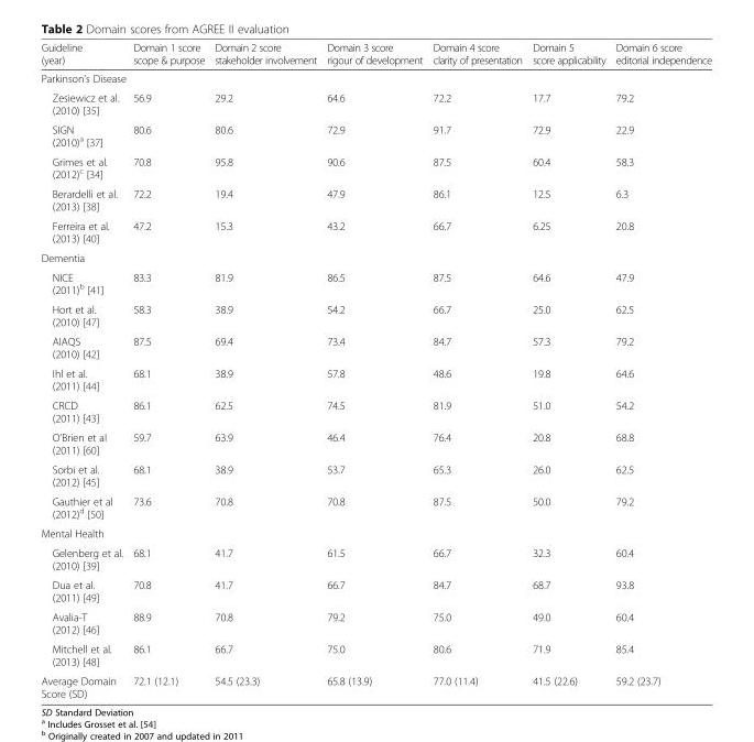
<table><thead><tr><td>Guideline (year)</td><td>Domain 1 score scope &amp; purpose</td><td>Domain 2 score stakeholder involvement</td><td>Domain 3 score rigour of development</td><td>Domain 4 score clarity of presentation</td><td>Domain 5 score applicability</td><td>Domain 6 score editorial independence</td></tr></thead><tbody><tr><td colspan="7">Parkinson’s Disease</td></tr><tr><td>Zesiewicz et al. (2010) [35]</td><td>56.9</td><td>29.2</td><td>64.6</td><td>72.2</td><td>17.7</td><td>79.2</td></tr><tr><td>SIGN (2010)<sup>a</sup> [37]</td><td>80.6</td><td>80.6</td><td>72.9</td><td>91.7</td><td>72.9</td><td>22.9</td></tr><tr><td>Grimes et al. (2012)<sup>c</sup> [34]</td><td>70.8</td><td>95.8</td><td>90.6</td><td>87.5</td><td>60.4</td><td>58.3</td></tr><tr><td>Berardelli et al. (2013) [38]</td><td>72.2</td><td>19.4</td><td>47.9</td><td>86.1</td><td>12.5</td><td>6.3</td></tr><tr><td>Ferreira et al. (2013) [40]</td><td>47.2</td><td>15.3</td><td>43.2</td><td>66.7</td><td>6.25</td><td>20.8</td></tr><tr><td colspan="7">Dementia</td></tr><tr><td>NICE (2011)<sup>b</sup> [41]</td><td>83.3</td><td>81.9</td><td>86.5</td><td>87.5</td><td>64.6</td><td>47.9</td></tr><tr><td>Hort et al. (2010) [47]</td><td>58.3</td><td>38.9</td><td>54.2</td><td>66.7</td><td>25.0</td><td>62.5</td></tr><tr><td>AIAQS (2010) [42]</td><td>87.5</td><td>69.4</td><td>73.4</td><td>84.7</td><td>57.3</td><td>79.2</td></tr><tr><td>Ihl et al. (2011) [44]</td><td>68.1</td><td>38.9</td><td>57.8</td><td>48.6</td><td>19.8</td><td>64.6</td></tr><tr><td>CRCD (2011) [43]</td><td>86.1</td><td>62.5</td><td>74.5</td><td>81.9</td><td>51.0</td><td>54.2</td></tr><tr><td>O’Brien et al (2011) [60]</td><td>59.7</td><td>63.9</td><td>46.4</td><td>76.4</td><td>20.8</td><td>68.8</td></tr><tr><td>Sorbi et al. (2012) [45]</td><td>68.1</td><td>38.9</td><td>53.7</td><td>65.3</td><td>26.0</td><td>62.5</td></tr><tr><td>Gauthier et al (2012)<sup>d</sup> [50]</td><td>73.6</td><td>70.8</td><td>70.8</td><td>87.5</td><td>50.0</td><td>79.2</td></tr><tr><td colspan="7">Mental Health</td></tr><tr><td>Gelenberg et al. (2010) [39]</td><td>68.1</td><td>41.7</td><td>61.5</td><td>66.7</td><td>32.3</td><td>60.4</td></tr><tr><td>Dua et al. (2011) [49]</td><td>70.8</td><td>41.7</td><td>66.7</td><td>84.7</td><td>68.7</td><td>93.8</td></tr><tr><td>Avalia-T (2012) [46]</td><td>88.9</td><td>70.8</td><td>79.2</td><td>75.0</td><td>49.0</td><td>60.4</td></tr><tr><td>Mitchell et al. (2013) [48]</td><td>86.1</td><td>66.7</td><td>75.0</td><td>80.6</td><td>71.9</td><td>85.4</td></tr><tr><td>Average Domain Score (SD)</td><td>72.1 (12.1)</td><td>54.5 (23.3)</td><td>65.8 (13.9)</td><td>77.0 (11.4)</td><td>41.5 (22.6)</td><td>59.2 (23.7)</td></tr></tbody></table>